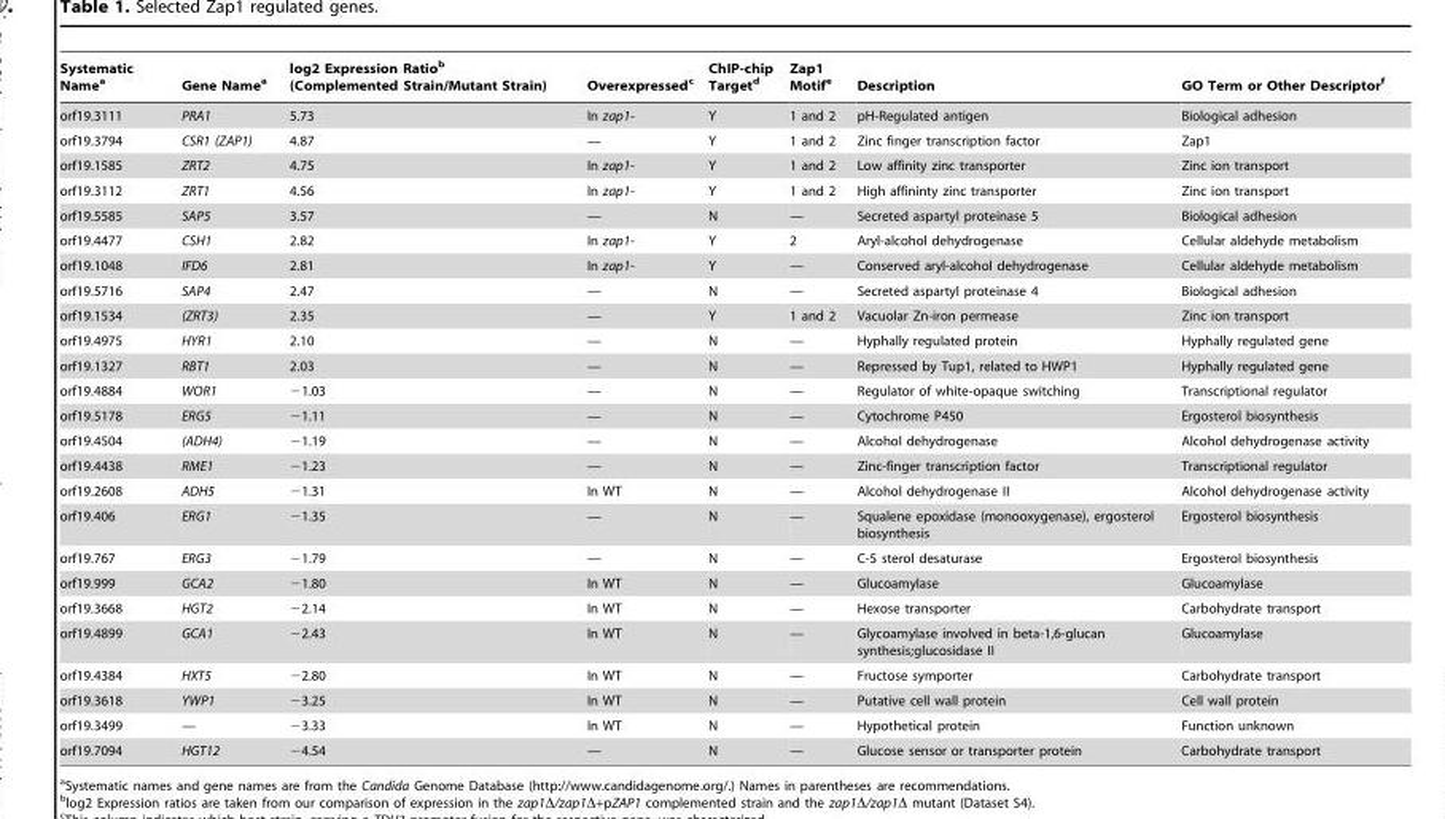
<table><thead><tr><td>Systematic Name<sup>a</sup></td><td>Gene Name<sup>a</sup></td><td>log2 Expression Ratio<sup>b</sup> (Complemented Strain/Mutant Strain)</td><td>Overexpressed<sup>c</sup></td><td>ChIP-chip Target<sup>d</sup></td><td>Zap1 Motif<sup>e</sup></td><td>Description</td><td>GO Term or Other Descriptor<sup>f</sup></td></tr></thead><tbody><tr><td>orf19.3111</td><td>PRA1</td><td>5.73</td><td>In zap1-</td><td>Y</td><td>1 and 2</td><td>pH-Regulated antigen</td><td>Biological adhesion</td></tr><tr><td>orf19.3794</td><td>CSR1 (ZAP1)</td><td>4.87</td><td>—</td><td>Y</td><td>1 and 2</td><td>Zinc finger transcription factor</td><td>Zap1</td></tr><tr><td>orf19.1585</td><td>ZRT2</td><td>4.75</td><td>In zap1-</td><td>Y</td><td>1 and 2</td><td>Low affinity zinc transporter</td><td>Zinc ion transport</td></tr><tr><td>orf19.3112</td><td>ZRT1</td><td>4.56</td><td>In zap1-</td><td>Y</td><td>1 and 2</td><td>High affininty zinc transporter</td><td>Zinc ion transport</td></tr><tr><td>orf19.5585</td><td>SAP5</td><td>3.57</td><td>—</td><td>N</td><td>—</td><td>Secreted aspartyl proteinase 5</td><td>Biological adhesion</td></tr><tr><td>orf19.4477</td><td>CSH1</td><td>2.82</td><td>In zap1-</td><td>Y</td><td>2</td><td>Aryl-alcohol dehydrogenase</td><td>Cellular aldehyde metabolism</td></tr><tr><td>orf19.1048</td><td>IFD6</td><td>2.81</td><td>In zap1-</td><td>Y</td><td>—</td><td>Conserved aryl-alcohol dehydrogenase</td><td>Cellular aldehyde metabolism</td></tr><tr><td>orf19.5716</td><td>SAP4</td><td>2.47</td><td>—</td><td>N</td><td>—</td><td>Secreted aspartyl proteinase 4</td><td>Biological adhesion</td></tr><tr><td>orf19.1534</td><td>(ZRT3)</td><td>2.35</td><td>—</td><td>Y</td><td>1 and 2</td><td>Vacuolar Zn-iron permease</td><td>Zinc ion transport</td></tr><tr><td>orf19.4975</td><td>HYR1</td><td>2.10</td><td>—</td><td>N</td><td>—</td><td>Hyphally regulated protein</td><td>Hyphally regulated gene</td></tr><tr><td>orf19.1327</td><td>RBT1</td><td>2.03</td><td>—</td><td>N</td><td>—</td><td>Repressed by Tup1, related to HWP1</td><td>Hyphally regulated gene</td></tr><tr><td>orf19.4884</td><td>WOR1</td><td>−1.03</td><td>—</td><td>N</td><td>—</td><td>Regulator of white-opaque switching</td><td>Transcriptional regulator</td></tr><tr><td>orf19.5178</td><td>ERG5</td><td>−1.11</td><td>—</td><td>N</td><td>—</td><td>Cytochrome P450</td><td>Ergosterol biosynthesis</td></tr><tr><td>orf19.4504</td><td>(ADH4)</td><td>−1.19</td><td>—</td><td>N</td><td>—</td><td>Alcohol dehydrogenase</td><td>Alcohol dehydrogenase activity</td></tr><tr><td>orf19.4438</td><td>RME1</td><td>−1.23</td><td>—</td><td>N</td><td>—</td><td>Zinc-finger transcription factor</td><td>Transcriptional regulator</td></tr><tr><td>orf19.2608</td><td>ADH5</td><td>−1.31</td><td>In WT</td><td>N</td><td>—</td><td>Alcohol dehydrogenase II</td><td>Alcohol dehydrogenase activity</td></tr><tr><td>orf19.406</td><td>ERG1</td><td>−1.35</td><td>—</td><td>N</td><td>—</td><td>Squalene epoxidase (monooxygenase), ergosterol biosynthesis</td><td>Ergosterol biosynthesis</td></tr><tr><td>orf19.767</td><td>ERG3</td><td>−1.79</td><td>—</td><td>N</td><td>—</td><td>C-5 sterol desaturase</td><td>Ergosterol biosynthesis</td></tr><tr><td>orf19.999</td><td>GCA2</td><td>−1.80</td><td>In WT</td><td>N</td><td>—</td><td>Glucoamylase</td><td>Glucoamylase</td></tr><tr><td>orf19.3668</td><td>HGT2</td><td>−2.14</td><td>In WT</td><td>N</td><td>—</td><td>Hexose transporter</td><td>Carbohydrate transport</td></tr><tr><td>orf19.4899</td><td>GCA1</td><td>−2.43</td><td>In WT</td><td>N</td><td>—</td><td>Glycoamylase involved in beta-1,6-glucan synthesis;glucosidase II</td><td>Glucoamylase</td></tr><tr><td>orf19.4384</td><td>HXT5</td><td>−2.80</td><td>In WT</td><td>N</td><td>—</td><td>Fructose symporter</td><td>Carbohydrate transport</td></tr><tr><td>orf19.3618</td><td>YWP1</td><td>−3.25</td><td>In WT</td><td>N</td><td>—</td><td>Putative cell wall protein</td><td>Cell wall protein</td></tr><tr><td>orf19.3499</td><td>—</td><td>−3.33</td><td>In WT</td><td>N</td><td>—</td><td>Hypothetical protein</td><td>Function unknown</td></tr><tr><td>orf19.7094</td><td>HGT12</td><td>−4.54</td><td>—</td><td>N</td><td>—</td><td>Glucose sensor or transporter protein</td><td>Carbohydrate transport</td></tr></tbody></table>